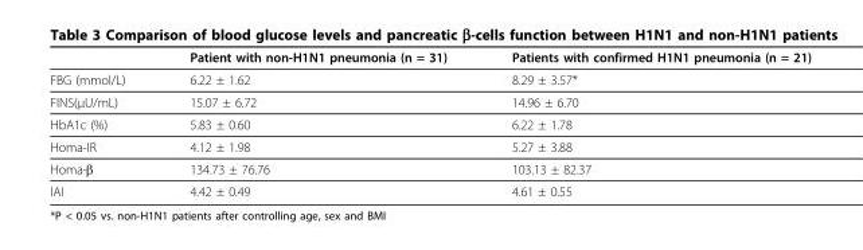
<table><thead><tr><td></td><td>Patient with non-H1N1 pneumonia (n = 31)</td><td>Patients with confirmed H1N1 pneumonia (n = 21)</td></tr></thead><tbody><tr><td>FBG (mmol/L)</td><td>6.22 ± 1.62</td><td>8.29 ± 3.57*</td></tr><tr><td>FINS(μU/mL)</td><td>15.07 ± 6.72</td><td>14.96 ± 6.70</td></tr><tr><td>HbA1c (%)</td><td>5.83 ± 0.60</td><td>6.22 ± 1.78</td></tr><tr><td>Homa-IR</td><td>4.12 ± 1.98</td><td>5.27 ± 3.88</td></tr><tr><td>Homa-β</td><td>134.73 ± 76.76</td><td>103.13 ± 82.37</td></tr><tr><td>IAI</td><td>4.42 ± 0.49</td><td>4.61 ± 0.55</td></tr></tbody></table>